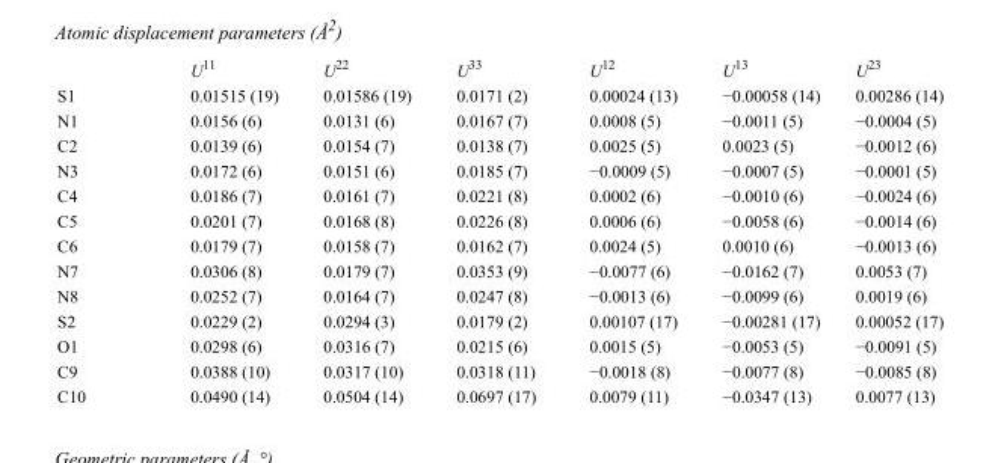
<table><thead><tr><td></td><td>U<sup>11</sup></td><td>U<sup>22</sup></td><td>U<sup>33</sup></td><td>U<sup>12</sup></td><td>U<sup>13</sup></td><td>U<sup>23</sup></td></tr></thead><tbody><tr><td>S1</td><td>0.01515 (19)</td><td>0.01586 (19)</td><td>0.0171 (2)</td><td>0.00024 (13)</td><td>−0.00058 (14)</td><td>0.00286 (14)</td></tr><tr><td>N1</td><td>0.0156 (6)</td><td>0.0131 (6)</td><td>0.0167 (7)</td><td>0.0008 (5)</td><td>−0.0011 (5)</td><td>−0.0004 (5)</td></tr><tr><td>C2</td><td>0.0139 (6)</td><td>0.0154 (7)</td><td>0.0138 (7)</td><td>0.0025 (5)</td><td>0.0023 (5)</td><td>−0.0012 (6)</td></tr><tr><td>N3</td><td>0.0172 (6)</td><td>0.0151 (6)</td><td>0.0185 (7)</td><td>−0.0009 (5)</td><td>−0.0007 (5)</td><td>−0.0001 (5)</td></tr><tr><td>C4</td><td>0.0186 (7)</td><td>0.0161 (7)</td><td>0.0221 (8)</td><td>0.0002 (6)</td><td>−0.0010 (6)</td><td>−0.0024 (6)</td></tr><tr><td>C5</td><td>0.0201 (7)</td><td>0.0168 (8)</td><td>0.0226 (8)</td><td>0.0006 (6)</td><td>−0.0058 (6)</td><td>−0.0014 (6)</td></tr><tr><td>C6</td><td>0.0179 (7)</td><td>0.0158 (7)</td><td>0.0162 (7)</td><td>0.0024 (5)</td><td>0.0010 (6)</td><td>−0.0013 (6)</td></tr><tr><td>N7</td><td>0.0306 (8)</td><td>0.0179 (7)</td><td>0.0353 (9)</td><td>−0.0077 (6)</td><td>−0.0162 (7)</td><td>0.0053 (7)</td></tr><tr><td>N8</td><td>0.0252 (7)</td><td>0.0164 (7)</td><td>0.0247 (8)</td><td>−0.0013 (6)</td><td>−0.0099 (6)</td><td>0.0019 (6)</td></tr><tr><td>S2</td><td>0.0229 (2)</td><td>0.0294 (3)</td><td>0.0179 (2)</td><td>0.00107 (17)</td><td>−0.00281 (17)</td><td>0.00052 (17)</td></tr><tr><td>O1</td><td>0.0298 (6)</td><td>0.0316 (7)</td><td>0.0215 (6)</td><td>0.0015 (5)</td><td>−0.0053 (5)</td><td>−0.0091 (5)</td></tr><tr><td>C9</td><td>0.0388 (10)</td><td>0.0317 (10)</td><td>0.0318 (11)</td><td>−0.0018 (8)</td><td>−0.0077 (8)</td><td>−0.0085 (8)</td></tr><tr><td>C10</td><td>0.0490 (14)</td><td>0.0504 (14)</td><td>0.0697 (17)</td><td>0.0079 (11)</td><td>−0.0347 (13)</td><td>0.0077 (13)</td></tr></tbody></table>